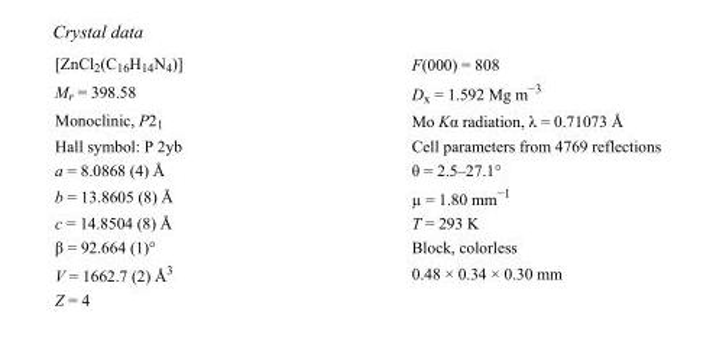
<table><tbody><tr><td>[ZnCl<sub>2</sub>(C<sub>16</sub>H<sub>14</sub>N<sub>4</sub>)]</td><td>F(000) = 808</td></tr><tr><td>M<sub>r</sub> = 398.58</td><td>D<sub>x</sub> = 1.592 Mg m<sup>−3</sup></td></tr><tr><td>Monoclinic, P2<sub>1</sub></td><td>Mo Kα radiation, λ = 0.71073 Å</td></tr><tr><td>Hall symbol: P 2yb</td><td>Cell parameters from 4769 reflections</td></tr><tr><td>a = 8.0868 (4) Å</td><td>θ = 2.5–27.1°</td></tr><tr><td>b = 13.8605 (8) Å</td><td>µ = 1.80 mm<sup>−1</sup></td></tr><tr><td>c = 14.8504 (8) Å</td><td>T = 293 K</td></tr><tr><td>β = 92.664 (1)°</td><td>Block, colorless</td></tr><tr><td>V = 1662.7 (2) Å<sup>3</sup></td><td>0.48 × 0.34 × 0.30 mm</td></tr><tr><td>Z = 4</td><td></td></tr></tbody></table>